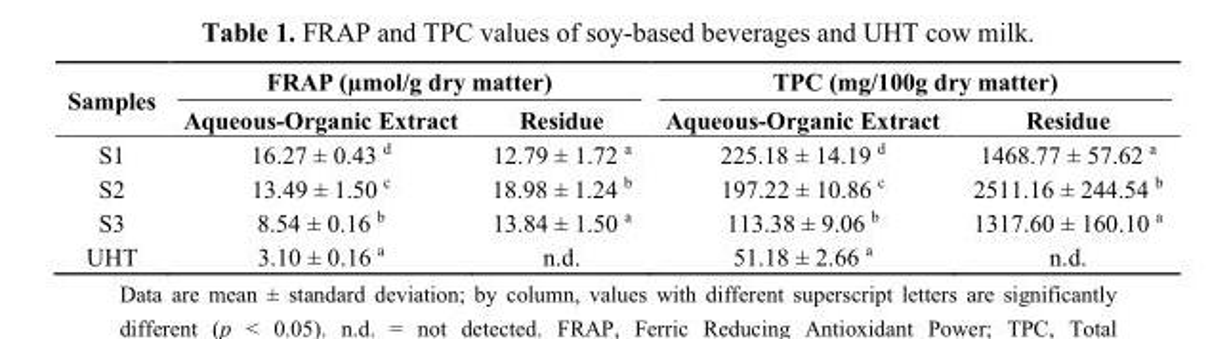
<table><thead><tr><td rowspan="2">Samples</td><td colspan="2">FRAP (µmol/g dry matter)</td><td colspan="2">TPC (mg/100g dry matter)</td></tr><tr><td>Aqueous-Organic Extract</td><td>Residue</td><td>Aqueous-Organic Extract</td><td>Residue</td></tr></thead><tbody><tr><td>S1</td><td>16.27 ± 0.43 <sup>d</sup></td><td>12.79 ± 1.72 <sup>a</sup></td><td>225.18 ± 14.19 <sup>d</sup></td><td>1468.77 ± 57.62 <sup>a</sup></td></tr><tr><td>S2</td><td>13.49 ± 1.50 <sup>c</sup></td><td>18.98 ± 1.24 <sup>b</sup></td><td>197.22 ± 10.86 <sup>c</sup></td><td>2511.16 ± 244.54 <sup>b</sup></td></tr><tr><td>S3</td><td>8.54 ± 0.16 <sup>b</sup></td><td>13.84 ± 1.50 <sup>a</sup></td><td>113.38 ± 9.06 <sup>b</sup></td><td>1317.60 ± 160.10 <sup>a</sup></td></tr><tr><td>UHT</td><td>3.10 ± 0.16 <sup>a</sup></td><td>n.d.</td><td>51.18 ± 2.66 <sup>a</sup></td><td>n.d.</td></tr></tbody></table>